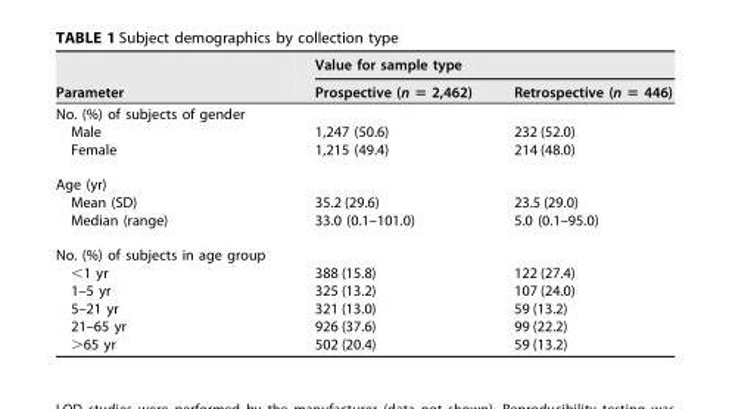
<table><thead><tr><td rowspan="2">Parameter</td><td colspan="2">Value for sample type</td></tr><tr><td>Prospective (n = 2,462)</td><td>Retrospective (n = 446)</td></tr></thead><tbody><tr><td colspan="3">No. (%) of subjects of gender</td></tr><tr><td>Male</td><td>1,247 (50.6)</td><td>232 (52.0)</td></tr><tr><td>Female</td><td>1,215 (49.4)</td><td>214 (48.0)</td></tr><tr><td colspan="3">Age (yr)</td></tr><tr><td>Mean (SD)</td><td>35.2 (29.6)</td><td>23.5 (29.0)</td></tr><tr><td>Median (range)</td><td>33.0 (0.1–101.0)</td><td>5.0 (0.1–95.0)</td></tr><tr><td colspan="3">No. (%) of subjects in age group</td></tr><tr><td>&lt;1 yr</td><td>388 (15.8)</td><td>122 (27.4)</td></tr><tr><td>1–5 yr</td><td>325 (13.2)</td><td>107 (24.0)</td></tr><tr><td>5–21 yr</td><td>321 (13.0)</td><td>59 (13.2)</td></tr><tr><td>21–65 yr</td><td>926 (37.6)</td><td>99 (22.2)</td></tr><tr><td>&gt;65 yr</td><td>502 (20.4)</td><td>59 (13.2)</td></tr></tbody></table>